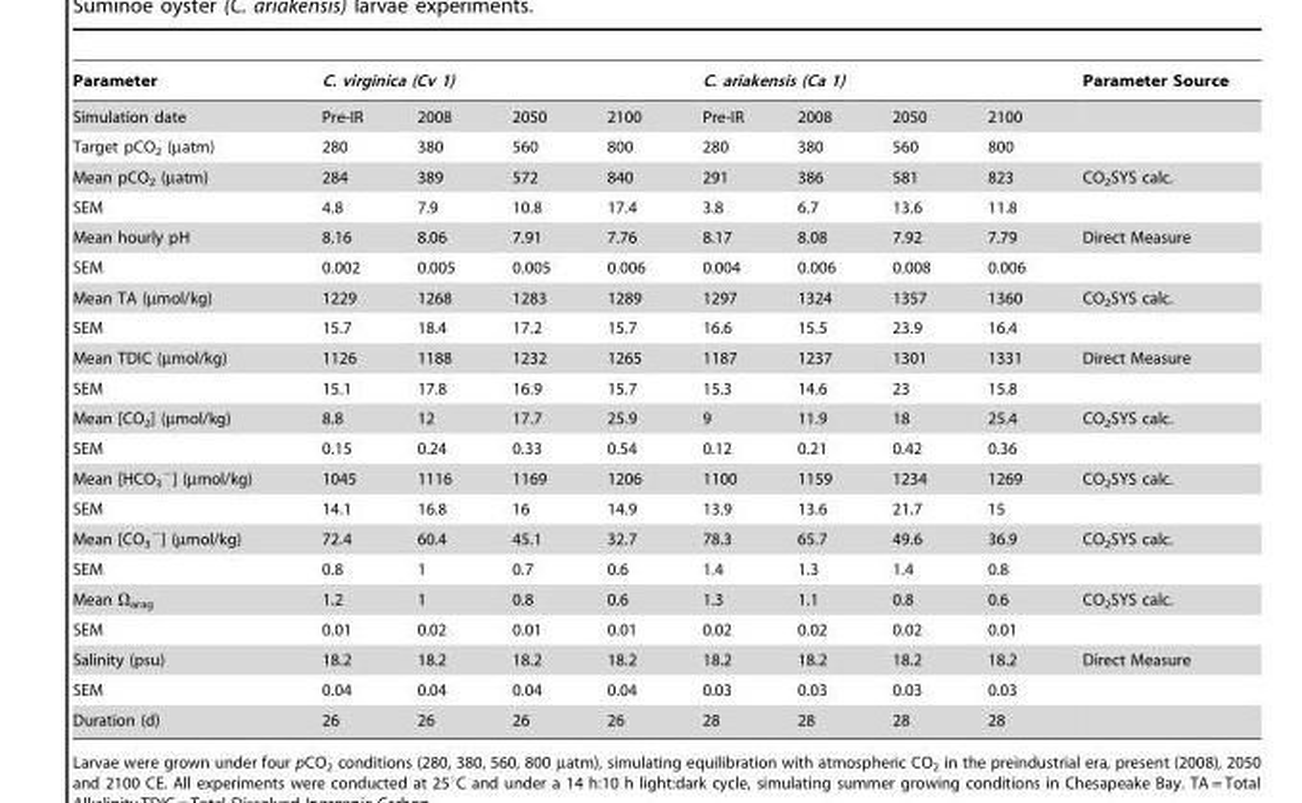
<table><thead><tr><td rowspan="2">Parameter Simulation date</td><td colspan="4">C. virginica (Cv 1)</td><td colspan="4">C. ariakensis (Ca 1)</td><td rowspan="2">Parameter Source</td></tr><tr><td>Pre-IR</td><td>2008</td><td>2050</td><td>2100</td><td>Pre-IR</td><td>2008</td><td>2050</td><td>2100</td></tr></thead><tbody><tr><td>Target pCO<sub>2</sub> (µatm)</td><td>280</td><td>380</td><td>560</td><td>800</td><td>280</td><td>380</td><td>560</td><td>800</td><td></td></tr><tr><td>Mean pCO<sub>2</sub> (µatm)</td><td>284</td><td>389</td><td>572</td><td>840</td><td>291</td><td>386</td><td>581</td><td>823</td><td>CO<sub>2</sub>SYS calc.</td></tr><tr><td>SEM</td><td>4.8</td><td>7.9</td><td>10.8</td><td>17.4</td><td>3.8</td><td>6.7</td><td>13.6</td><td>11.8</td><td></td></tr><tr><td>Mean hourly pH</td><td>8.16</td><td>8.06</td><td>7.91</td><td>7.76</td><td>8.17</td><td>8.08</td><td>7.92</td><td>7.79</td><td>Direct Measure</td></tr><tr><td>SEM</td><td>0.002</td><td>0.005</td><td>0.005</td><td>0.006</td><td>0.004</td><td>0.006</td><td>0.008</td><td>0.006</td><td></td></tr><tr><td>Mean TA (µmol/kg)</td><td>1229</td><td>1268</td><td>1283</td><td>1289</td><td>1297</td><td>1324</td><td>1357</td><td>1360</td><td>CO<sub>2</sub>SYS calc.</td></tr><tr><td>SEM</td><td>15.7</td><td>18.4</td><td>17.2</td><td>15.7</td><td>16.6</td><td>15.5</td><td>23.9</td><td>16.4</td><td></td></tr><tr><td>Mean TDIC (µmol/kg)</td><td>1126</td><td>1188</td><td>1232</td><td>1265</td><td>1187</td><td>1237</td><td>1301</td><td>1331</td><td>Direct Measure</td></tr><tr><td>SEM</td><td>15.1</td><td>17.8</td><td>16.9</td><td>15.7</td><td>15.3</td><td>14.6</td><td>23</td><td>15.8</td><td></td></tr><tr><td>Mean [CO<sub>2</sub>] (µmol/kg)</td><td>8.8</td><td>12</td><td>17.7</td><td>25.9</td><td>9</td><td>11.9</td><td>18</td><td>25.4</td><td>CO<sub>2</sub>SYS calc.</td></tr><tr><td>SEM</td><td>0.15</td><td>0.24</td><td>0.33</td><td>0.54</td><td>0.12</td><td>0.21</td><td>0.42</td><td>0.36</td><td></td></tr><tr><td>Mean [HCO<sub>3</sub> <sup>−</sup>] (µmol/kg)</td><td>1045</td><td>1116</td><td>1169</td><td>1206</td><td>1100</td><td>1159</td><td>1234</td><td>1269</td><td>CO<sub>2</sub>SYS calc.</td></tr><tr><td>SEM</td><td>14.1</td><td>16.8</td><td>16</td><td>14.9</td><td>13.9</td><td>13.6</td><td>21.7</td><td>15</td><td></td></tr><tr><td>Mean [CO<sub>3</sub> <sup>−</sup>] (µmol/kg)</td><td>72.4</td><td>60.4</td><td>45.1</td><td>32.7</td><td>78.3</td><td>65.7</td><td>49.6</td><td>36.9</td><td>CO<sub>2</sub>SYS calc.</td></tr><tr><td>SEM</td><td>0.8</td><td>1</td><td>0.7</td><td>0.6</td><td>1.4</td><td>1.3</td><td>1.4</td><td>0.8</td><td></td></tr><tr><td>Mean Ω<sub>arag</sub></td><td>1.2</td><td>1</td><td>0.8</td><td>0.6</td><td>1.3</td><td>1.1</td><td>0.8</td><td>0.6</td><td>CO<sub>2</sub>SYS calc.</td></tr><tr><td>SEM</td><td>0.01</td><td>0.02</td><td>0.01</td><td>0.01</td><td>0.02</td><td>0.02</td><td>0.02</td><td>0.01</td><td></td></tr><tr><td>Salinity (psu)</td><td>18.2</td><td>18.2</td><td>18.2</td><td>18.2</td><td>18.2</td><td>18.2</td><td>18.2</td><td>18.2</td><td>Direct Measure</td></tr><tr><td>SEM</td><td>0.04</td><td>0.04</td><td>0.04</td><td>0.04</td><td>0.03</td><td>0.03</td><td>0.03</td><td>0.03</td><td></td></tr><tr><td>Duration (d)</td><td>26</td><td>26</td><td>26</td><td>26</td><td>28</td><td>28</td><td>28</td><td>28</td><td></td></tr></tbody></table>